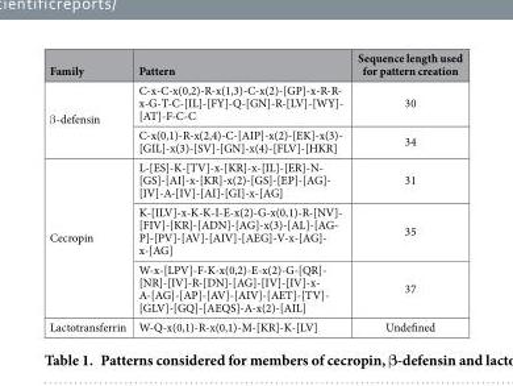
<table><thead><tr><td>Family</td><td>Pattern</td><td>Sequence length used for pattern creation</td></tr></thead><tbody><tr><td rowspan="2">β -defensin</td><td>C-x-C-x(0,2)-R-x(1,3)-C-x(2)-[GP]-x-R-R- x-G-T-C-[IL]-[FY]-Q-[GN]-R-[LV]-[WY]- [AT]-F-C-C</td><td>30</td></tr><tr><td>C-x(0,1)-R-x(2,4)-C-[AIP]-x(2)-[EK]-x(3)- [GIL]-x(3)-[SV]-[GN]-x(4)-[FLV]-[HKR]</td><td>34</td></tr><tr><td rowspan="3">Cecropin</td><td>L-[ES]-K-[TV]-x-[KR]-x-[IL]-[ER]-N- [GS]-[AI]-x-[KR]-x(2)-[GS]-[EP]-[AG]- [IV]-A-[IV]-[AI]-[GI]-x-[AG]</td><td>31</td></tr><tr><td>K-[ILV]-x-K-K-I-E-x(2)-G-x(0,1)-R-[NV]- [FIV]-[KR]-[ADN]-[AG]-x(3)-[AL]-[AG- P]-[PV]-[AV]-[AIV]-[AEG]-V-x-[AG]- x-[AG]</td><td>35</td></tr><tr><td>W-x-[LPV]-F-K-x(0,2)-E-x(2)-G-[QR]- [NR]-[IV]-R-[DN]-[AG]-[IV]-[IV]-x- A-[AG]-[AP]-[AV]-[AIV]-[AET]-[TV]- [GLV]-[GQ]-[AEQS]-A-x(2)-[AIL]</td><td>37</td></tr><tr><td>Lactotransferrin</td><td>W-Q-x(0,1)-R-x(0,1)-M-[KR]-K-[LV]</td><td>Undefined</td></tr></tbody></table>